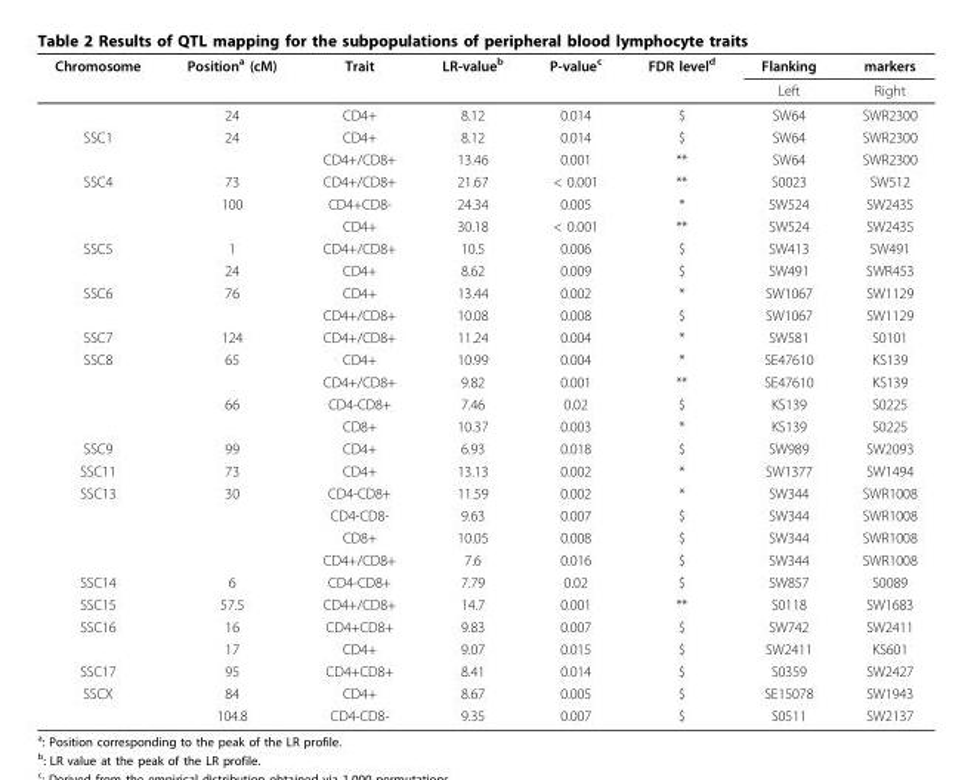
<table><thead><tr><td rowspan="2">Chromosome</td><td rowspan="2">Position<sup>a</sup> (cM)</td><td rowspan="2">Trait</td><td rowspan="2">LR-value<sup>b</sup></td><td rowspan="2">P-value<sup>c</sup></td><td rowspan="2">FDR level<sup>d</sup></td><td rowspan="2">Flanking Left</td><td rowspan="2">markers Right</td></tr><tr></tr></thead><tbody><tr><td></td><td>24</td><td>CD4+</td><td>8.12</td><td>0.014</td><td>$</td><td>SW64</td><td>SWR2300</td></tr><tr><td rowspan="2">SSC1</td><td>24</td><td>CD4+</td><td>8.12</td><td>0.014</td><td>$</td><td>SW64</td><td>SWR2300</td></tr><tr><td></td><td>CD4+/CD8+</td><td>13.46</td><td>0.001</td><td>**</td><td>SW64</td><td>SWR2300</td></tr><tr><td rowspan="3">SSC4</td><td>73</td><td>CD4+/CD8+</td><td>21.67</td><td>&lt; 0.001</td><td>**</td><td>S0023</td><td>SW512</td></tr><tr><td>100</td><td>CD4+CD8-</td><td>24.34</td><td>0.005</td><td>*</td><td>SW524</td><td>SW2435</td></tr><tr><td></td><td>CD4+</td><td>30.18</td><td>&lt; 0.001</td><td>**</td><td>SW524</td><td>SW2435</td></tr><tr><td rowspan="2">SSC5</td><td>1</td><td>CD4+/CD8+</td><td>10.5</td><td>0.006</td><td>$</td><td>SW413</td><td>SW491</td></tr><tr><td>24</td><td>CD4+</td><td>8.62</td><td>0.009</td><td>$</td><td>SW491</td><td>SWR453</td></tr><tr><td rowspan="2">SSC6</td><td>76</td><td>CD4+</td><td>13.44</td><td>0.002</td><td>*</td><td>SW1067</td><td>SW1129</td></tr><tr><td></td><td>CD4+/CD8+</td><td>10.08</td><td>0.008</td><td>$</td><td>SW1067</td><td>SW1129</td></tr><tr><td>SSC7</td><td>124</td><td>CD4+/CD8+</td><td>11.24</td><td>0.004</td><td>*</td><td>SW581</td><td>S0101</td></tr><tr><td rowspan="4">SSC8</td><td>65</td><td>CD4+</td><td>10.99</td><td>0.004</td><td>*</td><td>SE47610</td><td>KS139</td></tr><tr><td></td><td>CD4+/CD8+</td><td>9.82</td><td>0.001</td><td>**</td><td>SE47610</td><td>KS139</td></tr><tr><td>66</td><td>CD4-CD8+</td><td>7.46</td><td>0.02</td><td>$</td><td>KS139</td><td>S0225</td></tr><tr><td></td><td>CD8+</td><td>10.37</td><td>0.003</td><td>*</td><td>KS139</td><td>S0225</td></tr><tr><td>SSC9</td><td>99</td><td>CD4+</td><td>6.93</td><td>0.018</td><td>$</td><td>SW989</td><td>SW2093</td></tr><tr><td>SSC11</td><td>73</td><td>CD4+</td><td>13.13</td><td>0.002</td><td>*</td><td>SW1377</td><td>SW1494</td></tr><tr><td rowspan="4">SSC13</td><td>30</td><td>CD4-CD8+</td><td>11.59</td><td>0.002</td><td>*</td><td>SW344</td><td>SWR1008</td></tr><tr><td></td><td>CD4-CD8-</td><td>9.63</td><td>0.007</td><td>$</td><td>SW344</td><td>SWR1008</td></tr><tr><td></td><td>CD8+</td><td>10.05</td><td>0.008</td><td>$</td><td>SW344</td><td>SWR1008</td></tr><tr><td></td><td>CD4+/CD8+</td><td>7.6</td><td>0.016</td><td>$</td><td>SW344</td><td>SWR1008</td></tr><tr><td>SSC14</td><td>6</td><td>CD4-CD8+</td><td>7.79</td><td>0.02</td><td>$</td><td>SW857</td><td>S0089</td></tr><tr><td>SSC15</td><td>57.5</td><td>CD4+/CD8+</td><td>14.7</td><td>0.001</td><td>**</td><td>S0118</td><td>SW1683</td></tr><tr><td rowspan="2">SSC16</td><td>16</td><td>CD4+CD8+</td><td>9.83</td><td>0.007</td><td>$</td><td>SW742</td><td>SW2411</td></tr><tr><td>17</td><td>CD4+</td><td>9.07</td><td>0.015</td><td>$</td><td>SW2411</td><td>KS601</td></tr><tr><td>SSC17</td><td>95</td><td>CD4+CD8+</td><td>8.41</td><td>0.014</td><td>$</td><td>S0359</td><td>SW2427</td></tr><tr><td rowspan="2">SSCX</td><td>84</td><td>CD4+</td><td>8.67</td><td>0.005</td><td>$</td><td>SE15078</td><td>SW1943</td></tr><tr><td>104.8</td><td>CD4-CD8-</td><td>9.35</td><td>0.007</td><td>$</td><td>S0511</td><td>SW2137</td></tr></tbody></table>